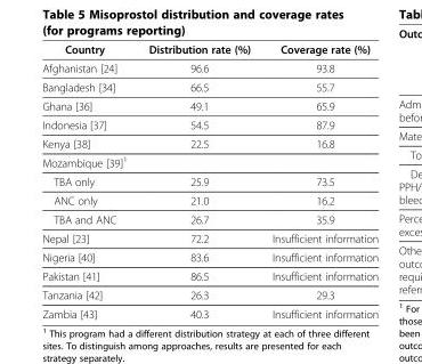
<table><thead><tr><td>Country</td><td>Distribution rate (%)</td><td>Coverage rate (%)</td></tr></thead><tbody><tr><td>Afghanistan [24]</td><td>96.6</td><td>93.8</td></tr><tr><td>Bangladesh [34]</td><td>66.5</td><td>55.7</td></tr><tr><td>Ghana [36]</td><td>49.1</td><td>65.9</td></tr><tr><td>Indonesia [37]</td><td>54.5</td><td>87.9</td></tr><tr><td>Kenya [38]</td><td>22.5</td><td>16.8</td></tr><tr><td colspan="3">Mozambique [39]<sup>1</sup></td></tr><tr><td>TBA only</td><td>25.9</td><td>73.5</td></tr><tr><td>ANC only</td><td>21.0</td><td>16.2</td></tr><tr><td>TBA and ANC</td><td>26.7</td><td>35.9</td></tr><tr><td>Nepal [23]</td><td>72.2</td><td>Insufficient information</td></tr><tr><td>Nigeria [40]</td><td>83.6</td><td>Insufficient information</td></tr><tr><td>Pakistan [41]</td><td>86.5</td><td>Insufficient information</td></tr><tr><td>Tanzania [42]</td><td>26.3</td><td>29.3</td></tr><tr><td>Zambia [43]</td><td>40.3</td><td>Insufficient information</td></tr></tbody></table>